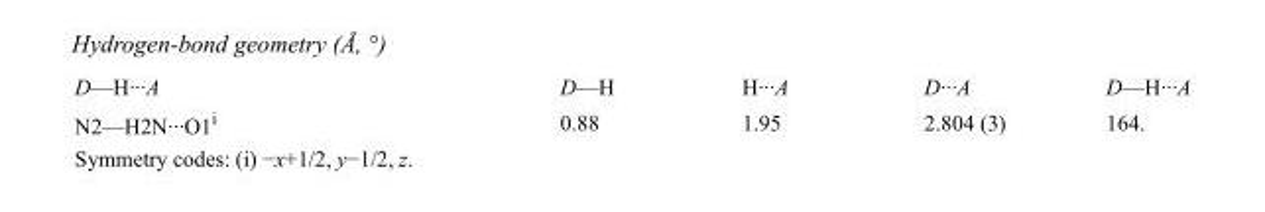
<table><tbody><tr><td>D—H···A</td><td>D—H</td><td>H···A</td><td>D···A</td><td>D—H···A</td></tr><tr><td>N2—H2N···O1<sup>i</sup></td><td>0.88</td><td>1.95</td><td>2.804 (3)</td><td>164.</td></tr></tbody></table>